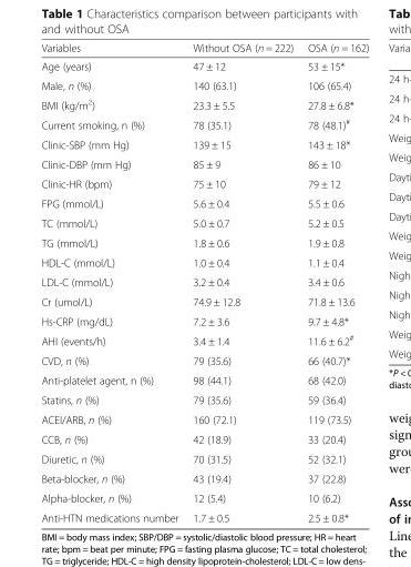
<table><thead><tr><td>Variables</td><td>Without OSA (n = 222)</td><td>OSA (n = 162)</td></tr></thead><tbody><tr><td>Age (years)</td><td>47 ± 12</td><td>53 ± 15*</td></tr><tr><td>Male, n (%)</td><td>140 (63.1)</td><td>106 (65.4)</td></tr><tr><td>BMI (kg/m<sup>2</sup>)</td><td>23.3 ± 5.5</td><td>27.8 ± 6.8*</td></tr><tr><td>Current smoking, n (%)</td><td>78 (35.1)</td><td>78 (48.1)<sup>#</sup></td></tr><tr><td>Clinic-SBP (mm Hg)</td><td>139 ± 15</td><td>143 ± 18*</td></tr><tr><td>Clinic-DBP (mm Hg)</td><td>85 ± 9</td><td>86 ± 10</td></tr><tr><td>Clinic-HR (bpm)</td><td>75 ± 10</td><td>79 ± 12</td></tr><tr><td>FPG (mmol/L)</td><td>5.6 ± 0.4</td><td>5.5 ± 0.6</td></tr><tr><td>TC (mmol/L)</td><td>5.0 ± 0.7</td><td>5.2 ± 0.5</td></tr><tr><td>TG (mmol/L)</td><td>1.8 ± 0.6</td><td>1.9 ± 0.8</td></tr><tr><td>HDL-C (mmol/L)</td><td>1.0 ± 0.4</td><td>1.1 ± 0.4</td></tr><tr><td>LDL-C (mmol/L)</td><td>3.2 ± 0.4</td><td>3.4 ± 0.6</td></tr><tr><td>Cr (umol/L)</td><td>74.9 ± 12.8</td><td>71.8 ± 13.6</td></tr><tr><td>Hs-CRP (mg/dL)</td><td>7.2 ± 3.6</td><td>9.7 ± 4.8*</td></tr><tr><td>AHI (events/h)</td><td>3.4 ± 1.4</td><td>11.6 ± 6.2<sup>#</sup></td></tr><tr><td>CVD, n (%)</td><td>79 (35.6)</td><td>66 (40.7)*</td></tr><tr><td>Anti-platelet agent, n (%)</td><td>98 (44.1)</td><td>68 (42.0)</td></tr><tr><td>Statins, n (%)</td><td>79 (35.6)</td><td>59 (36.4)</td></tr><tr><td>ACEI/ARB, n (%)</td><td>160 (72.1)</td><td>119 (73.5)</td></tr><tr><td>CCB, n (%)</td><td>42 (18.9)</td><td>33 (20.4)</td></tr><tr><td>Diuretic, n (%)</td><td>70 (31.5)</td><td>52 (32.1)</td></tr><tr><td>Beta-blocker, n (%)</td><td>43 (19.4)</td><td>37 (22.8)</td></tr><tr><td>Alpha-blocker, n (%)</td><td>12 (5.4)</td><td>10 (6.2)</td></tr><tr><td>Anti-HTN medications number</td><td>1.7 ± 0.5</td><td>2.5 ± 0.8*</td></tr></tbody></table>